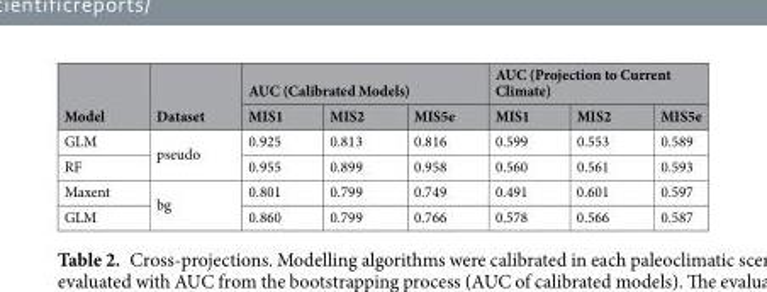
<table><thead><tr><td rowspan="2">Model</td><td rowspan="2">Dataset</td><td colspan="3">AUC (Calibrated Models)</td><td colspan="3">AUC (Projection to Current Climate)</td></tr><tr><td>MIS1</td><td>MIS2</td><td>MIS5e</td><td>MIS1</td><td>MIS2</td><td>MIS5e</td></tr></thead><tbody><tr><td>GLM</td><td rowspan="2">pseudo</td><td>0.925</td><td>0.813</td><td>0.816</td><td>0.599</td><td>0.553</td><td>0.589</td></tr><tr><td>RF</td><td>0.955</td><td>0.899</td><td>0.958</td><td>0.560</td><td>0.561</td><td>0.593</td></tr><tr><td>Maxent</td><td rowspan="2">bg</td><td>0.801</td><td>0.799</td><td>0.749</td><td>0.491</td><td>0.601</td><td>0.597</td></tr><tr><td>GLM</td><td>0.860</td><td>0.799</td><td>0.766</td><td>0.578</td><td>0.566</td><td>0.587</td></tr></tbody></table>